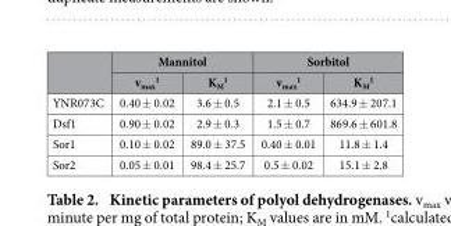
<table><thead><tr><td rowspan="2"></td><td colspan="2">Mannitol</td><td colspan="2">Sorbitol</td></tr><tr><td>v<sub>max</sub> <sup>1</sup></td><td>K<sub>M</sub> <sup>1</sup></td><td>v<sub>max</sub> <sup>1</sup></td><td>K<sub>M</sub> <sup>1</sup></td></tr></thead><tbody><tr><td>YNR073C</td><td>0.40 ± 0.02</td><td>3.6 ± 0.5</td><td>2.1 ± 0.5</td><td>634.9 ± 207.1</td></tr><tr><td>Dsf1</td><td>0.90 ± 0.02</td><td>2.9 ± 0.3</td><td>1.5 ± 0.7</td><td>869.6 ± 601.8</td></tr><tr><td>Sor1</td><td>0.10 ± 0.02</td><td>89.0 ± 37.5</td><td>0.40 ± 0.01</td><td>11.8 ± 1.4</td></tr><tr><td>Sor2</td><td>0.05 ± 0.01</td><td>98.4 ± 25.7</td><td>0.5 ± 0.02</td><td>15.1 ± 2.8</td></tr></tbody></table>